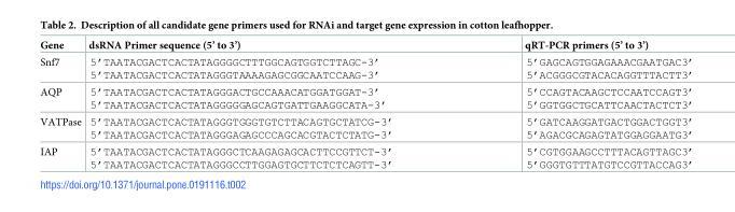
<table><thead><tr><td>Gene</td><td>dsRNA Primer sequence (5’ to 3’)</td><td>qRT-PCR primers (5’ to 3’)</td></tr></thead><tbody><tr><td>Snf7</td><td>5’TAATACGACTCACTATAGGGGCTTTGGCAGTGGTCTTAGC-3’ 5’TAATACGACTCACTATAGGGTAAAAGAGCGGCAATCCAAG-3’</td><td>5’GAGCAGTGGAGAAACGAATGAC3’ 5’ACGGGCGTACACAGGTTTACTT3’</td></tr><tr><td>AQP</td><td>5’TAATACGACTCACTATAGGGACTGCCAAACATGGATGGAT-3’ 5’TAATACGACTCACTATAGGGGGAGCAGTGATTGAAGGCATA-3’</td><td>5’CCAGTACAAGCTCCAATCCAGT3’ 5’GGTGGCTGCATTCAACTACTCT3’</td></tr><tr><td>VATPase</td><td>5’TAATACGACTCACTATAGGGTGGGTGTCTTACAGTGCTATCG-3’ 5’TAATACGACTCACTATAGGGAGAGCCCAGCACGTACTCTATG-3’</td><td>5’GATCAAGGATGACTGGACTGGT3’ 5’AGACGCAGAGTATGGAGGAATG3’</td></tr><tr><td>IAP</td><td>5’TAATACGACTCACTATAGGGCTCAAGAGAGCACTTCCGTTCT-3’ 5’TAATACGACTCACTATAGGGCCTTGGAGTGCTTCTCTCAGTT-3’</td><td>5’CGTGGAAGCCTTTACAGTTAGC3’ 5’GGGTGTTTATGTCCGTTACCAG3’</td></tr></tbody></table>